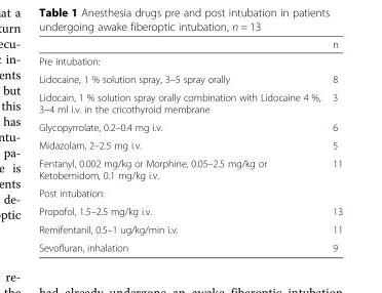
<table><thead><tr><td></td><td>n</td></tr></thead><tbody><tr><td colspan="2">Pre intubation:</td></tr><tr><td>Lidocaine, 1 % solution spray, 3–5 spray orally</td><td>8</td></tr><tr><td>Lidocain, 1 % solution spray orally combination with Lidocaine 4 %, 3–4 ml i.v. in the cricothyroid membrane</td><td>3</td></tr><tr><td>Glycopyrrolate, 0.2–0.4 mg i.v.</td><td>6</td></tr><tr><td>Midazolam, 2–2.5 mg i.v.</td><td>5</td></tr><tr><td>Fentanyl, 0.002 mg/kg or Morphine, 0.05–2.5 mg/kg or Ketobemidom, 0.1 mg/kg i.v.</td><td>11</td></tr><tr><td colspan="2">Post intubation:</td></tr><tr><td>Propofol, 1.5–2.5 mg/kg i.v.</td><td>13</td></tr><tr><td>Remifentanil, 0.5–1 ug/kg/min i.v.</td><td>11</td></tr><tr><td>Sevofluran, inhalation</td><td>9</td></tr></tbody></table>